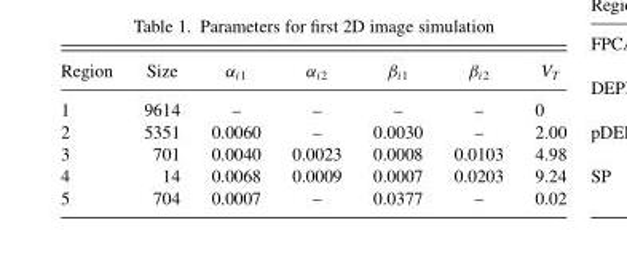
<table><thead><tr><td>Region</td><td>Size</td><td>α<sub>i1</sub></td><td>α<sub>i2</sub></td><td>β<sub>i1</sub></td><td>β<sub>i2</sub></td><td>V<sub>T</sub></td></tr></thead><tbody><tr><td>1</td><td>9614</td><td>–</td><td>–</td><td>–</td><td>–</td><td>0</td></tr><tr><td>2</td><td>5351</td><td>0.0060</td><td>–</td><td>0.0030</td><td>–</td><td>2.00</td></tr><tr><td>3</td><td>701</td><td>0.0040</td><td>0.0023</td><td>0.0008</td><td>0.0103</td><td>4.98</td></tr><tr><td>4</td><td>14</td><td>0.0068</td><td>0.0009</td><td>0.0007</td><td>0.0203</td><td>9.24</td></tr><tr><td>5</td><td>704</td><td>0.0007</td><td>–</td><td>0.0377</td><td>–</td><td>0.02</td></tr></tbody></table>